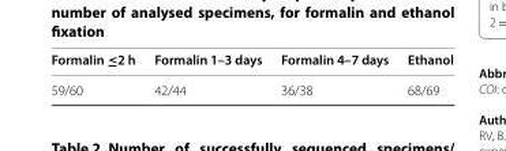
<table><thead><tr><td>Formalin ≤2 h</td><td>Formalin 1–3 days</td><td>Formalin 4–7 days</td><td>Ethanol</td></tr></thead><tbody><tr><td>59/60</td><td>42/44</td><td>36/38</td><td>68/69</td></tr></tbody></table>